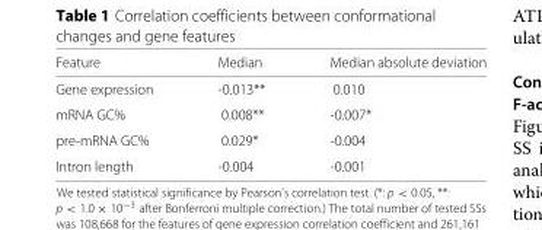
<table><thead><tr><td>Feature</td><td>Median</td><td>Median absolute deviation</td></tr></thead><tbody><tr><td>Gene expression</td><td>-0.013**</td><td>0.010</td></tr><tr><td>mRNA GC%</td><td>0.008**</td><td>-0.007*</td></tr><tr><td>pre-mRNA GC%</td><td>0.029*</td><td>-0.004</td></tr><tr><td>Intron length</td><td>-0.004</td><td>-0.001</td></tr></tbody></table>